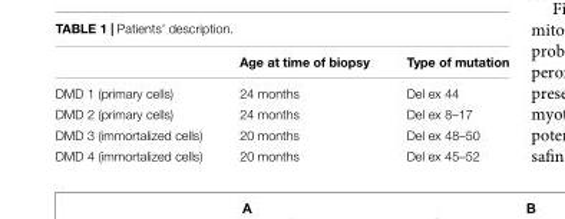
<table><thead><tr><td></td><td>Age at time of biopsy</td><td>Type of mutation</td></tr></thead><tbody><tr><td>DMD 1 (primary cells)</td><td>24 months</td><td>Del ex 44</td></tr><tr><td>DMD 2 (primary cells)</td><td>24 months</td><td>Del ex 8–17</td></tr><tr><td>DMD 3 (immortalized cells)</td><td>20 months</td><td>Del ex 48–50</td></tr><tr><td>DMD 4 (immortalized cells)</td><td>20 months</td><td>Del ex 45–52</td></tr></tbody></table>